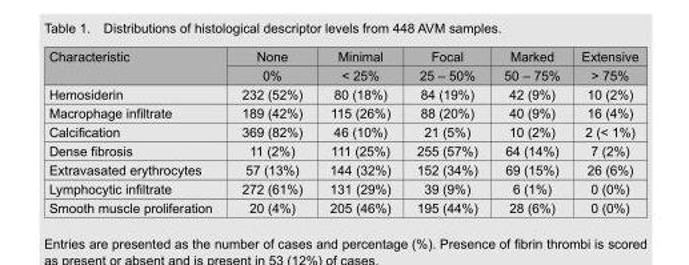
<table><thead><tr><td rowspan="2">Characteristic</td><td rowspan="2">None 0%</td><td rowspan="2">Minimal &lt; 25%</td><td rowspan="2">Focal 25 – 50%</td><td rowspan="2">Marked 50 – 75%</td><td rowspan="2">Extensive &gt; 75%</td></tr><tr></tr></thead><tbody><tr><td>Hemosiderin</td><td>232 (52%)</td><td>80 (18%)</td><td>84 (19%)</td><td>42 (9%)</td><td>10 (2%)</td></tr><tr><td>Macrophage infiltrate</td><td>189 (42%)</td><td>115 (26%)</td><td>88 (20%)</td><td>40 (9%)</td><td>16 (4%)</td></tr><tr><td>Calcification</td><td>369 (82%)</td><td>46 (10%)</td><td>21 (5%)</td><td>10 (2%)</td><td>2 (&lt; 1%)</td></tr><tr><td>Dense fibrosis</td><td>11 (2%)</td><td>111 (25%)</td><td>255 (57%)</td><td>64 (14%)</td><td>7 (2%)</td></tr><tr><td>Extravasated erythrocytes</td><td>57 (13%)</td><td>144 (32%)</td><td>152 (34%)</td><td>69 (15%)</td><td>26 (6%)</td></tr><tr><td>Lymphocytic infiltrate</td><td>272 (61%)</td><td>131 (29%)</td><td>39 (9%)</td><td>6 (1%)</td><td>0 (0%)</td></tr><tr><td>Smooth muscle proliferation</td><td>20 (4%)</td><td>205 (46%)</td><td>195 (44%)</td><td>28 (6%)</td><td>0 (0%)</td></tr></tbody></table>